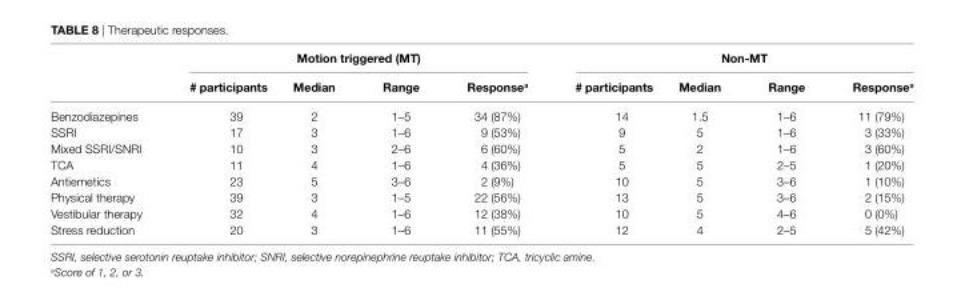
<table><thead><tr><td rowspan="2"></td><td colspan="4">Motion triggered (MT)</td><td colspan="4">non-MT</td></tr><tr><td># participants</td><td>Median</td><td>range</td><td>response<sup>a</sup></td><td># participants</td><td>Median</td><td>range</td><td>response<sup>a</sup></td></tr></thead><tbody><tr><td>Benzodiazepines</td><td>39</td><td>2</td><td>1–5</td><td>34 (87%)</td><td>14</td><td>1.5</td><td>1–6</td><td>11 (79%)</td></tr><tr><td>SSRI</td><td>17</td><td>3</td><td>1–6</td><td>9 (53%)</td><td>9</td><td>5</td><td>1–6</td><td>3 (33%)</td></tr><tr><td>Mixed SSRI/SNRI</td><td>10</td><td>3</td><td>2–6</td><td>6 (60%)</td><td>5</td><td>2</td><td>1–6</td><td>3 (60%)</td></tr><tr><td>TCA</td><td>11</td><td>4</td><td>1–6</td><td>4 (36%)</td><td>5</td><td>5</td><td>2–5</td><td>1 (20%)</td></tr><tr><td>Antiemetics</td><td>23</td><td>5</td><td>3–6</td><td>2 (9%)</td><td>10</td><td>5</td><td>3–6</td><td>1 (10%)</td></tr><tr><td>Physical therapy</td><td>39</td><td>3</td><td>1–5</td><td>22 (56%)</td><td>13</td><td>5</td><td>3–6</td><td>2 (15%)</td></tr><tr><td>Vestibular therapy</td><td>32</td><td>4</td><td>1–6</td><td>12 (38%)</td><td>10</td><td>5</td><td>4–6</td><td>0 (0%)</td></tr><tr><td>Stress reduction</td><td>20</td><td>3</td><td>1–6</td><td>11 (55%)</td><td>12</td><td>4</td><td>2–5</td><td>5 (42%)</td></tr></tbody></table>